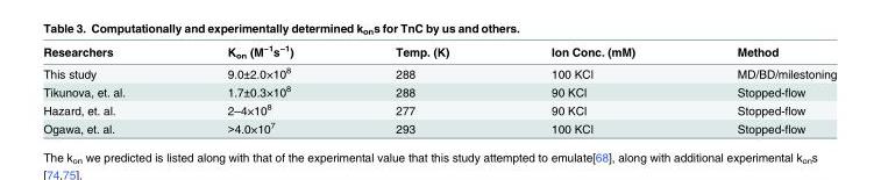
<table><thead><tr><td>Researchers</td><td>K<sub>on</sub> (M<sup>−1</sup>s<sup>−1</sup>)</td><td>Temp. (K)</td><td>Ion Conc. (mM)</td><td>Method</td></tr></thead><tbody><tr><td>This study</td><td>9.0±2.0×10<sup>8</sup></td><td>288</td><td>100 KCl</td><td>MD/BD/milestoning</td></tr><tr><td>Tikunova, et. al.</td><td>1.7±0.3×10<sup>8</sup></td><td>288</td><td>90 KCl</td><td>Stopped-flow</td></tr><tr><td>Hazard, et. al.</td><td>2–4×10<sup>8</sup></td><td>277</td><td>90 KCl</td><td>Stopped-flow</td></tr><tr><td>Ogawa, et. al.</td><td>&gt;4.0×10<sup>7</sup></td><td>293</td><td>100 KCl</td><td>Stopped-flow</td></tr></tbody></table>